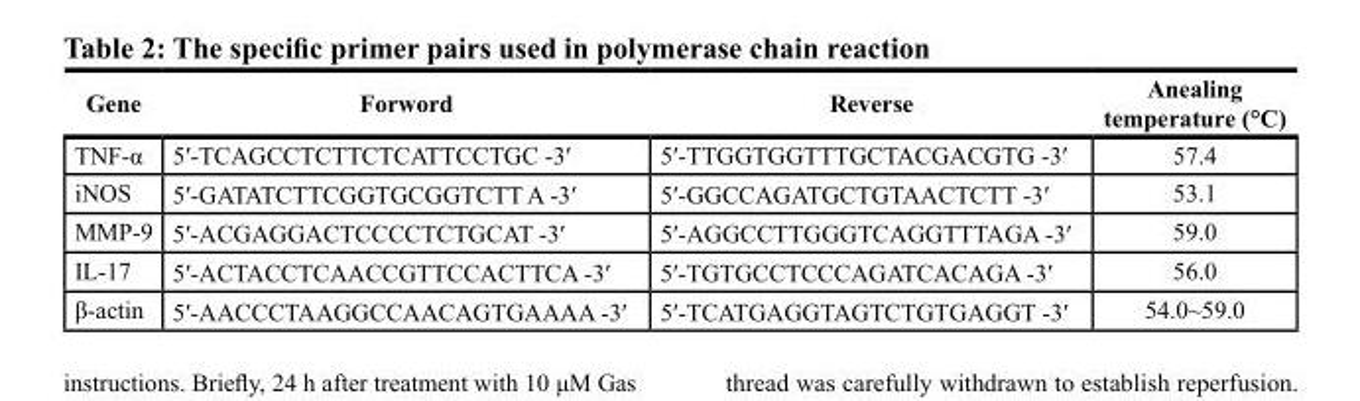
<table><thead><tr><td>Gene</td><td>Forword</td><td>Reverse</td><td>Anealing temperature (°C)</td></tr></thead><tbody><tr><td>TNF-α</td><td>5′-TCAGCCTCTTCTCATTCCTGC -3′</td><td>5′-TTGGTGGTTTGCTACGACGTG -3′</td><td>57.4</td></tr><tr><td>iNOS</td><td>5′-GATATCTTCGGTGCGGTCTT A -3′</td><td>5′-GGCCAGATGCTGTAACTCTT -3′</td><td>53.1</td></tr><tr><td>MMP-9</td><td>5′-ACGAGGACTCCCCTCTGCAT -3′</td><td>5′-AGGCCTTGGGTCAGGTTTAGA -3′</td><td>59.0</td></tr><tr><td>IL-17</td><td>5′-ACTACCTCAACCGTTCCACTTCA -3′</td><td>5′-TGTGCCTCCCAGATCACAGA -3′</td><td>56.0</td></tr><tr><td>β-actin</td><td>5′-AACCCTAAGGCCAACAGTGAAAA -3′</td><td>5′-TCATGAGGTAGTCTGTGAGGT -3′</td><td>54.0~59.0</td></tr></tbody></table>